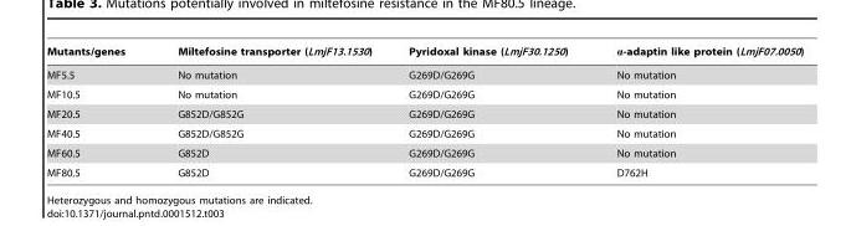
<table><thead><tr><td>Mutants/genes</td><td>Miltefosine transporter (LmjF13.1530)</td><td>Pyridoxal kinase (LmjF30.1250)</td><td>α-adaptin like protein (LmjF07.0050)</td></tr></thead><tbody><tr><td>MF5.5</td><td>No mutation</td><td>G269D/G269G</td><td>No mutation</td></tr><tr><td>MF10.5</td><td>No mutation</td><td>G269D/G269G</td><td>No mutation</td></tr><tr><td>MF20.5</td><td>G852D/G852G</td><td>G269D/G269G</td><td>No mutation</td></tr><tr><td>MF40.5</td><td>G852D/G852G</td><td>G269D/G269G</td><td>No mutation</td></tr><tr><td>MF60.5</td><td>G852D</td><td>G269D/G269G</td><td>No mutation</td></tr><tr><td>MF80.5</td><td>G852D</td><td>G269D/G269G</td><td>D762H</td></tr></tbody></table>